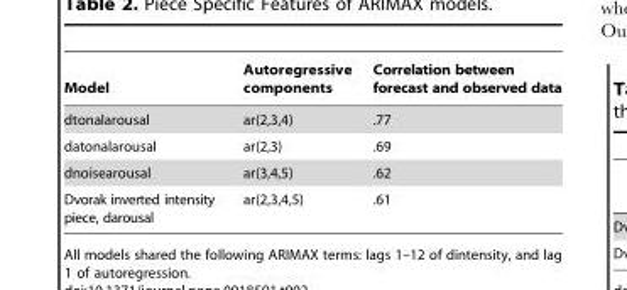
<table><thead><tr><td>Model</td><td>Autoregressive components</td><td>Correlation between forecast and observed data</td></tr></thead><tbody><tr><td>dtonalarousal</td><td>ar(2,3,4)</td><td>.77</td></tr><tr><td>datonalarousal</td><td>ar(2,3)</td><td>.69</td></tr><tr><td>dnoisearousal</td><td>ar(3,4,5)</td><td>.62</td></tr><tr><td>Dvorak inverted intensity piece, darousal</td><td>ar(2,3,4,5)</td><td>.61</td></tr></tbody></table>